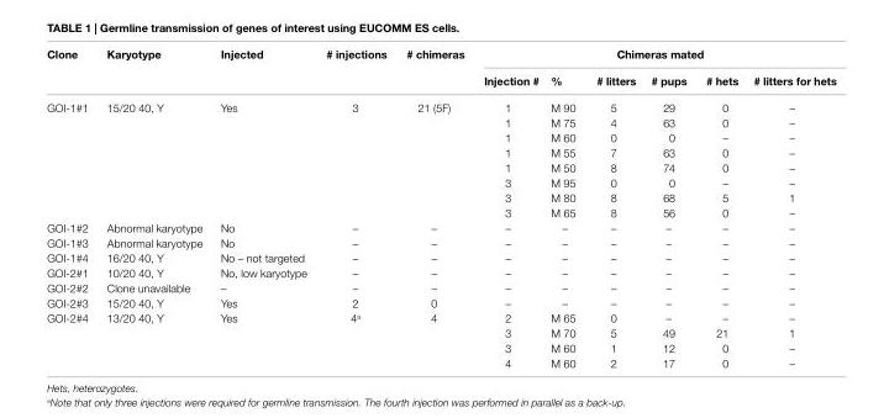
<table><thead><tr><td rowspan="2">Clone</td><td rowspan="2">Karyotype</td><td rowspan="2">Injected</td><td rowspan="2"># injections</td><td rowspan="2"># chimeras</td><td colspan="6">Chimeras mated</td></tr><tr><td>Injection #</td><td>%</td><td># litters</td><td># pups</td><td># hets</td><td># litters for hets</td></tr></thead><tbody><tr><td rowspan="8">GOI-1#1</td><td>15/20 40, Y</td><td>Yes</td><td>3</td><td>21 (5F)</td><td>1</td><td>M 90</td><td>5</td><td>29</td><td>0</td><td>–</td></tr><tr><td></td><td></td><td></td><td></td><td>1</td><td>M 75</td><td>4</td><td>63</td><td>0</td><td>–</td></tr><tr><td></td><td></td><td></td><td></td><td>1</td><td>M 60</td><td>0</td><td>0</td><td>–</td><td>–</td></tr><tr><td></td><td></td><td></td><td></td><td>1</td><td>M 55</td><td>7</td><td>63</td><td>0</td><td>–</td></tr><tr><td></td><td></td><td></td><td></td><td>1</td><td>M 50</td><td>8</td><td>74</td><td>0</td><td>–</td></tr><tr><td></td><td></td><td></td><td></td><td>3</td><td>M 95</td><td>0</td><td>0</td><td>–</td><td>–</td></tr><tr><td></td><td></td><td></td><td></td><td>3</td><td>M 80</td><td>8</td><td>68</td><td>5</td><td>1</td></tr><tr><td></td><td></td><td></td><td></td><td>3</td><td>M 65</td><td>8</td><td>56</td><td>0</td><td>–</td></tr><tr><td>GOI-1#2</td><td>Abnormal karyotype</td><td>No</td><td>–</td><td>–</td><td>–</td><td>–</td><td>–</td><td>–</td><td>–</td><td>–</td></tr><tr><td>GOI-1#3</td><td>Abnormal karyotype</td><td>No</td><td>–</td><td>–</td><td>–</td><td>–</td><td>–</td><td>–</td><td>–</td><td>–</td></tr><tr><td>GOI-1#4</td><td>16/20 40, Y</td><td>No – not targeted</td><td>–</td><td>–</td><td>–</td><td>–</td><td>–</td><td>–</td><td>–</td><td>–</td></tr><tr><td>GOI-2#1</td><td>10/20 40, Y</td><td>No, low karyotype</td><td>–</td><td>–</td><td>–</td><td>–</td><td>–</td><td>–</td><td>–</td><td>–</td></tr><tr><td>GOI-2#2</td><td>Clone unavailable</td><td>–</td><td>–</td><td>–</td><td>–</td><td>–</td><td>–</td><td>–</td><td>–</td><td>–</td></tr><tr><td>GOI-2#3</td><td>15/20 40, Y</td><td>Yes</td><td>2</td><td>0</td><td>–</td><td>–</td><td>–</td><td>–</td><td>–</td><td>–</td></tr><tr><td rowspan="4">GOI-2#4</td><td>13/20 40, Y</td><td>Yes</td><td>4<sup>a</sup></td><td>4</td><td>2</td><td>M 65</td><td>0</td><td>–</td><td>–</td><td>–</td></tr><tr><td></td><td></td><td></td><td></td><td>3</td><td>M 70</td><td>5</td><td>49</td><td>21</td><td>1</td></tr><tr><td></td><td></td><td></td><td></td><td>3</td><td>M 60</td><td>1</td><td>12</td><td>0</td><td>–</td></tr><tr><td></td><td></td><td></td><td></td><td>4</td><td>M 60</td><td>2</td><td>17</td><td>0</td><td>–</td></tr></tbody></table>